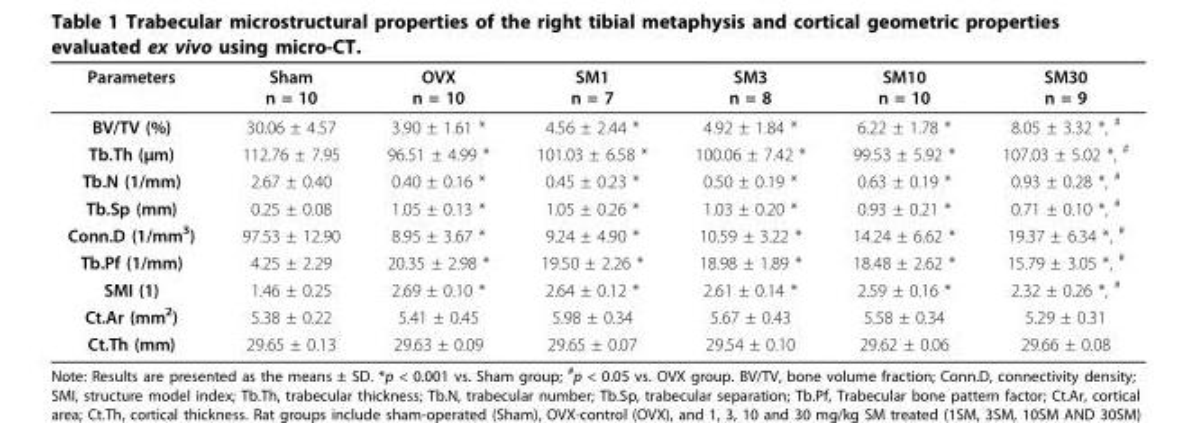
<table><thead><tr><td>Parameters</td><td>Sham n = 10</td><td>OVX n = 10</td><td>SM1 n = 7</td><td>SM3 n = 8</td><td>SM10 n = 10</td><td>SM30 n = 9</td></tr></thead><tbody><tr><td>BV/TV (%)</td><td>30.06 ± 4.57</td><td>3.90 ± 1.61 *</td><td>4.56 ± 2.44 *</td><td>4.92 ± 1.84 *</td><td>6.22 ± 1.78 *</td><td>8.05 ± 3.32 *, <sup>#</sup></td></tr><tr><td>Tb.Th (μm)</td><td>112.76 ± 7.95</td><td>96.51 ± 4.99 *</td><td>101.03 ± 6.58 *</td><td>100.06 ± 7.42 *</td><td>99.53 ± 5.92 *</td><td>107.03 ± 5.02 *, <sup>#</sup></td></tr><tr><td>Tb.N (1/mm)</td><td>2.67 ± 0.40</td><td>0.40 ± 0.16 *</td><td>0.45 ± 0.23 *</td><td>0.50 ± 0.19 *</td><td>0.63 ± 0.19 *</td><td>0.93 ± 0.28 *, <sup>#</sup></td></tr><tr><td>Tb.Sp (mm)</td><td>0.25 ± 0.08</td><td>1.05 ± 0.13 *</td><td>1.05 ± 0.26 *</td><td>1.03 ± 0.20 *</td><td>0.93 ± 0.21 *</td><td>0.71 ± 0.10 *, <sup>#</sup></td></tr><tr><td>Conn.D (1/mm<sup>3</sup>)</td><td>97.53 ± 12.90</td><td>8.95 ± 3.67 *</td><td>9.24 ± 4.90 *</td><td>10.59 ± 3.22 *</td><td>14.24 ± 6.62 *</td><td>19.37 ± 6.34 *, <sup>#</sup></td></tr><tr><td>Tb.Pf (1/mm)</td><td>4.25 ± 2.29</td><td>20.35 ± 2.98 *</td><td>19.50 ± 2.26 *</td><td>18.98 ± 1.89 *</td><td>18.48 ± 2.62 *</td><td>15.79 ± 3.05 *, <sup>#</sup></td></tr><tr><td>SMI (1)</td><td>1.46 ± 0.25</td><td>2.69 ± 0.10 *</td><td>2.64 ± 0.12 *</td><td>2.61 ± 0.14 *</td><td>2.59 ± 0.16 *</td><td>2.32 ± 0.26 *, <sup>#</sup></td></tr><tr><td>Ct.Ar (mm<sup>2</sup>)</td><td>5.38 ± 0.22</td><td>5.41 ± 0.45</td><td>5.98 ± 0.34</td><td>5.67 ± 0.43</td><td>5.58 ± 0.34</td><td>5.29 ± 0.31</td></tr><tr><td>Ct.Th (mm)</td><td>29.65 ± 0.13</td><td>29.63 ± 0.09</td><td>29.65 ± 0.07</td><td>29.54 ± 0.10</td><td>29.62 ± 0.06</td><td>29.66 ± 0.08</td></tr></tbody></table>